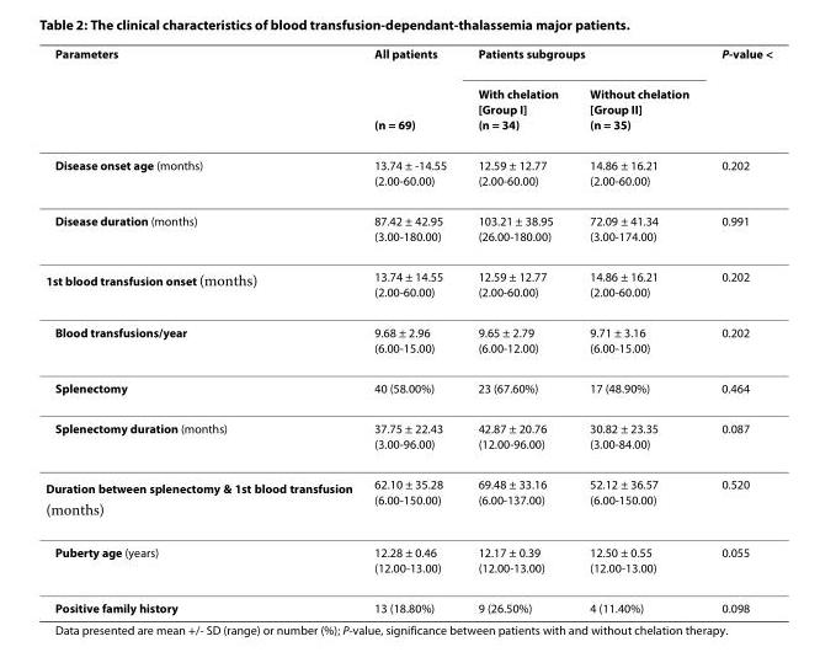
<table><thead><tr><td rowspan="2">Parameters</td><td rowspan="2">All patients (n = 69)</td><td colspan="2">Patients subgroups</td><td rowspan="2">P-value &lt;</td></tr><tr><td>With chelation [Group I] (n = 34)</td><td>Without chelation [Group II] (n = 35)</td></tr></thead><tbody><tr><td>Disease onset age (months)</td><td>13.74 ± -14.55 (2.00-60.00)</td><td>12.59 ± 12.77 (2.00-60.00)</td><td>14.86 ± 16.21 (2.00-60.00)</td><td>0.202</td></tr><tr><td>Disease duration (months)</td><td>87.42 ± 42.95 (3.00-180.00)</td><td>103.21 ± 38.95 (26.00-180.00)</td><td>72.09 ± 41.34 (3.00-174.00)</td><td>0.991</td></tr><tr><td>1<sup>st</sup> blood transfusion onset (months)</td><td>13.74 ± 14.55 (2.00-60.00)</td><td>12.59 ± 12.77 (2.00-60.00)</td><td>14.86 ± 16.21 (2.00-60.00)</td><td>0.202</td></tr><tr><td>Blood transfusions/year</td><td>9.68 ± 2.96 (6.00-15.00)</td><td>9.65 ± 2.79 (6.00-12.00)</td><td>9.71 ± 3.16 (6.00-15.00)</td><td>0.202</td></tr><tr><td>Splenectomy</td><td>40 (58.00%)</td><td>23 (67.60%)</td><td>17 (48.90%)</td><td>0.464</td></tr><tr><td>Splenectomy duration (months)</td><td>37.75 ± 22.43 (3.00-96.00)</td><td>42.87 ± 20.76 (12.00-96.00)</td><td>30.82 ± 23.35 (3.00-84.00)</td><td>0.087</td></tr><tr><td>Duration between splenectomy &amp; 1<sup>st</sup> blood transfusion (months)</td><td>62.10 ± 35.28 (6.00-150.00)</td><td>69.48 ± 33.16 (6.00-137.00)</td><td>52.12 ± 36.57 (6.00-150.00)</td><td>0.520</td></tr><tr><td>Puberty age (years)</td><td>12.28 ± 0.46 (12.00-13.00)</td><td>12.17 ± 0.39 (12.00-13.00)</td><td>12.50 ± 0.55 (12.00-13.00)</td><td>0.055</td></tr><tr><td>Positive family history</td><td>13 (18.80%)</td><td>9 (26.50%)</td><td>4 (11.40%)</td><td>0.098</td></tr></tbody></table>